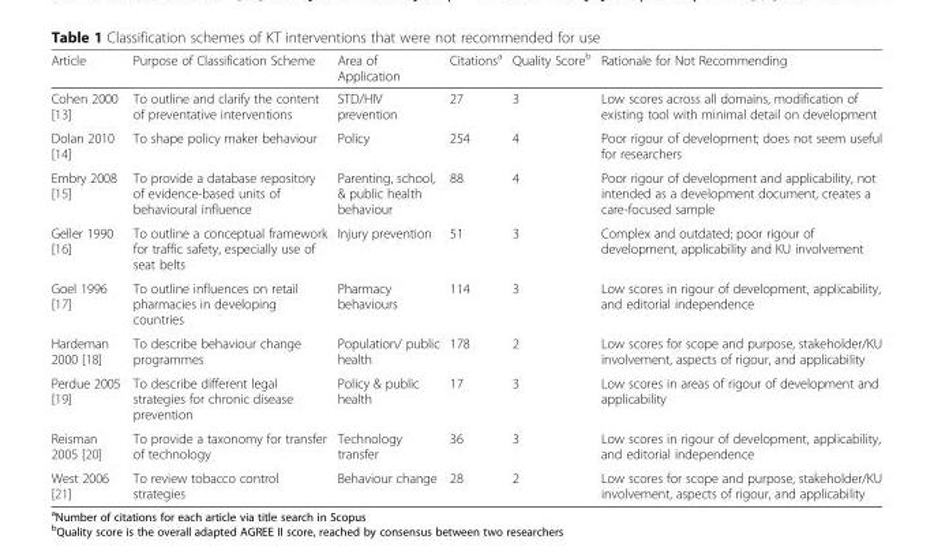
<table><thead><tr><td>Article</td><td>Purpose of Classification Scheme</td><td>Area of Application</td><td>Citations<sup>a</sup></td><td>Quality Score<sup>b</sup></td><td>Rationale for Not Recommending</td></tr></thead><tbody><tr><td>Cohen 2000 [13]</td><td>To outline and clarify the content of preventative interventions</td><td>STD/HIV prevention</td><td>27</td><td>3</td><td>Low scores across all domains, modification of existing tool with minimal detail on development</td></tr><tr><td>Dolan 2010 [14]</td><td>To shape policy maker behaviour</td><td>Policy</td><td>254</td><td>4</td><td>Poor rigour of development; does not seem useful for researchers</td></tr><tr><td>Embry 2008 [15]</td><td>To provide a database repository of evidence-based units of behavioural influence</td><td>Parenting, school, &amp; public health behaviour</td><td>88</td><td>4</td><td>Poor rigour of development and applicability, not intended as a development document, creates a care-focused sample</td></tr><tr><td>Geller 1990 [16]</td><td>To outline a conceptual framework for traffic safety, especially use of seat belts</td><td>Injury prevention</td><td>51</td><td>3</td><td>Complex and outdated; poor rigour of development, applicability and KU involvement</td></tr><tr><td>Goel 1996 [17]</td><td>To outline influences on retail pharmacies in developing countries</td><td>Pharmacy behaviours</td><td>114</td><td>3</td><td>Low scores in rigour of development, applicability, and editorial independence</td></tr><tr><td>Hardeman 2000 [18]</td><td>To describe behaviour change programmes</td><td>Population/ public health</td><td>178</td><td>2</td><td>Low scores for scope and purpose, stakeholder/KU involvement, aspects of rigour, and applicability</td></tr><tr><td>Perdue 2005 [19]</td><td>To describe different legal strategies for chronic disease prevention</td><td>Policy &amp; public health</td><td>17</td><td>3</td><td>Low scores in areas of rigour of development and applicability</td></tr><tr><td>Reisman 2005 [20]</td><td>To provide a taxonomy for transfer of technology</td><td>Technology transfer</td><td>36</td><td>3</td><td>Low scores in rigour of development, applicability, and editorial independence</td></tr><tr><td>West 2006 [21]</td><td>To review tobacco control strategies</td><td>Behaviour change</td><td>28</td><td>2</td><td>Low scores for scope and purpose, stakeholder/KU involvement, aspects of rigour, and applicability</td></tr></tbody></table>